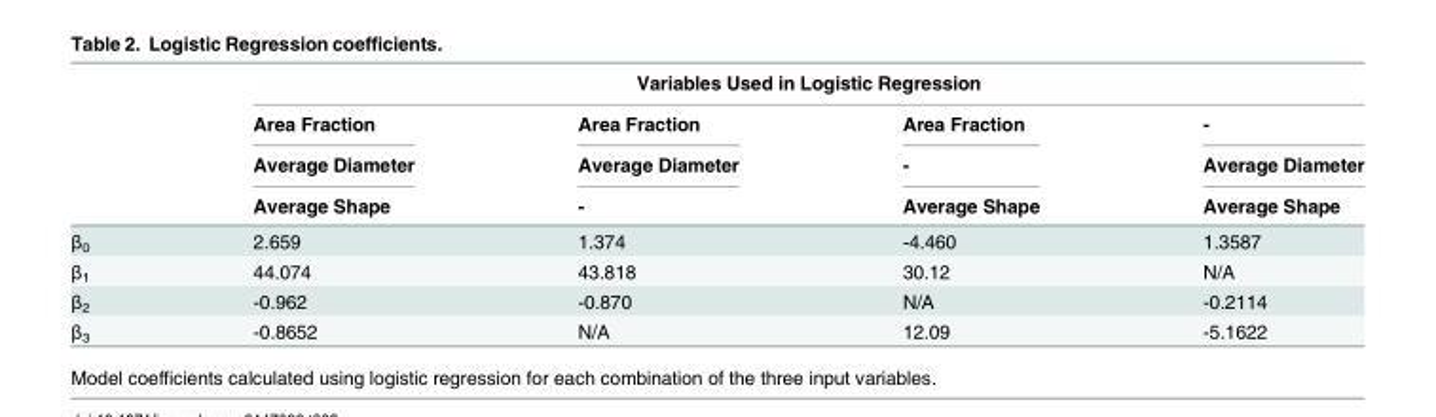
<table><thead><tr><td rowspan="4"></td><td colspan="4">Variables Used in Logistic Regression</td></tr><tr><td rowspan="3">Area Fraction Average Diameter Average Shape</td><td rowspan="3">Area Fraction Average Diameter -</td><td rowspan="3">Area Fraction - Average Shape</td><td rowspan="3">- Average Diameter Average Shape</td></tr><tr></tr><tr></tr></thead><tbody><tr><td>β<sub>0</sub></td><td>2.659</td><td>1.374</td><td>-4.460</td><td>1.3587</td></tr><tr><td>β<sub>1</sub></td><td>44.074</td><td>43.818</td><td>30.12</td><td>N/A</td></tr><tr><td>β<sub>2</sub></td><td>-0.962</td><td>-0.870</td><td>N/A</td><td>-0.2114</td></tr><tr><td>β<sub>3</sub></td><td>-0.8652</td><td>N/A</td><td>12.09</td><td>-5.1622</td></tr></tbody></table>